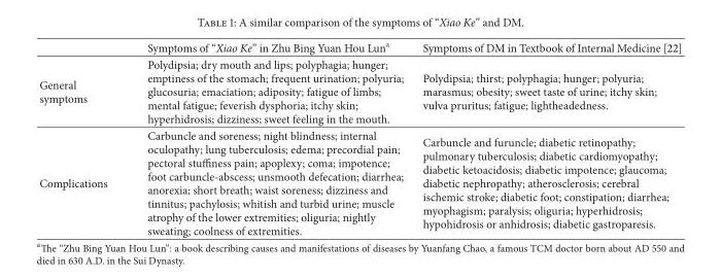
<table><thead><tr><td></td><td>Symptoms of “Xiao Ke” in Zhu Bing Yuan Hou Lun<sup>a</sup></td><td>Symptoms of DM in Textbook of Internal Medicine [22]</td></tr></thead><tbody><tr><td>General symptoms</td><td>Polydipsia; dry mouth and lips; polyphagia; hunger; emptiness of the stomach; frequent urination; polyuria; glucosuria; emaciation; adiposity; fatigue of limbs; mental fatigue; feverish dysphoria; itchy skin; hyperhidrosis; dizziness; sweet feeling in the mouth.</td><td>Polydipsia; thirst; polyphagia; hunger; polyuria; marasmus; obesity; sweet taste of urine; itchy skin; vulva pruritus; fatigue; lightheadedness.</td></tr><tr><td>Complications</td><td>Carbuncle and soreness; night blindness; internal oculopathy; lung tuberculosis; edema; precordial pain; pectoral stuffiness pain; apoplexy; coma; impotence; foot carbuncle-abscess; unsmooth defecation; diarrhea; anorexia; short breath; waist soreness; dizziness and tinnitus; pachylosis; whitish and turbid urine; muscle atrophy of the lower extremities; oliguria; nightly sweating; coolness of extremities.</td><td>Carbuncle and furuncle; diabetic retinopathy; pulmonary tuberculosis; diabetic cardiomyopathy; diabetic ketoacidosis; diabetic impotence; glaucoma; diabetic nephropathy; atherosclerosis; cerebral ischemic stroke; diabetic foot; constipation; diarrhea; myophagism; paralysis; oliguria; hyperhidrosis; hypohidrosis or anhidrosis; diabetic gastroparesis.</td></tr></tbody></table>